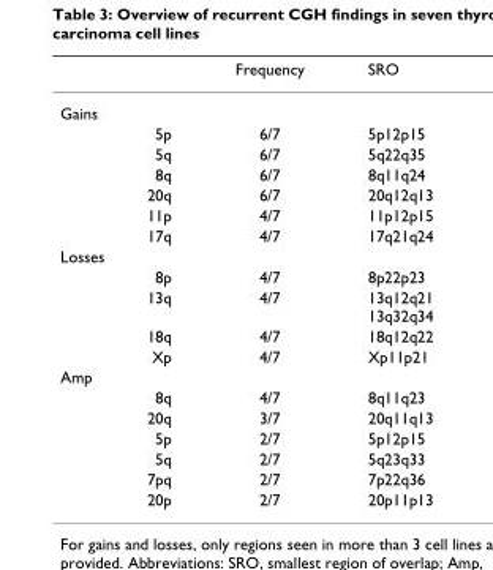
<table><thead><tr><td></td><td>Frequency</td><td>SRO</td></tr></thead><tbody><tr><td colspan="3">Gains</td></tr><tr><td>5p</td><td>6/7</td><td>5p12p15</td></tr><tr><td>5q</td><td>6/7</td><td>5q22q35</td></tr><tr><td>8q</td><td>6/7</td><td>8q11q24</td></tr><tr><td>20q</td><td>6/7</td><td>20q12q13</td></tr><tr><td>11p</td><td>4/7</td><td>11p12p15</td></tr><tr><td>17q</td><td>4/7</td><td>17q21q24</td></tr><tr><td colspan="3">Losses</td></tr><tr><td>8p</td><td>4/7</td><td>8p22p23</td></tr><tr><td>13q</td><td>4/7</td><td>13q12q21 13q32q34</td></tr><tr><td>18q</td><td>4/7</td><td>18q12q22</td></tr><tr><td>Xp</td><td>4/7</td><td>Xp11p21</td></tr><tr><td colspan="3">Amp</td></tr><tr><td>8q</td><td>4/7</td><td>8q11q23</td></tr><tr><td>20q</td><td>3/7</td><td>20q11q13</td></tr><tr><td>5p</td><td>2/7</td><td>5p12p15</td></tr><tr><td>5q</td><td>2/7</td><td>5q23q33</td></tr><tr><td>7pq</td><td>2/7</td><td>7p22q36</td></tr><tr><td>20p</td><td>2/7</td><td>20p11p13</td></tr></tbody></table>